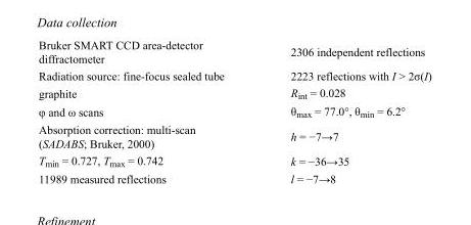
<table><tbody><tr><td>Bruker SMART CCD area-detector diffractometer</td><td>2306 independent reflections</td></tr><tr><td>Radiation source: fine-focus sealed tube</td><td>2223 reflections with I &gt; 2σ(I)</td></tr><tr><td>graphite</td><td>R<sub>int</sub> = 0.028</td></tr><tr><td>φ and ω scans</td><td>θ<sub>max</sub> = 77.0°, θ<sub>min</sub> = 6.2°</td></tr><tr><td>Absorption correction: multi-scan (SADABS; Bruker, 2000)</td><td>h = −7→7</td></tr><tr><td>T<sub>min</sub> = 0.727, T<sub>max</sub> = 0.742</td><td>k = −36→35</td></tr><tr><td>11989 measured reflections</td><td>l = −7→8</td></tr></tbody></table>